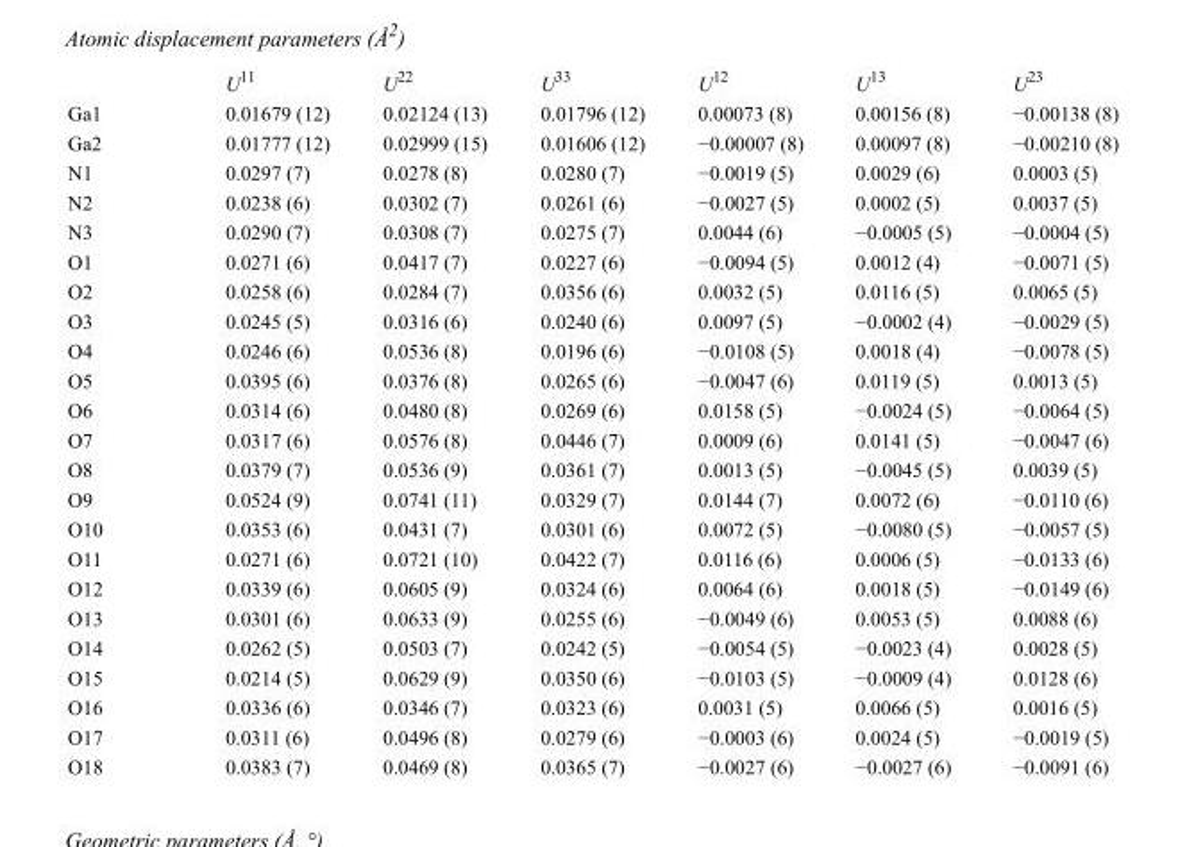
<table><thead><tr><td></td><td>U<sup>11</sup></td><td>U<sup>22</sup></td><td>U<sup>33</sup></td><td>U<sup>12</sup></td><td>U<sup>13</sup></td><td>U<sup>23</sup></td></tr></thead><tbody><tr><td>Ga1</td><td>0.01679 (12)</td><td>0.02124 (13)</td><td>0.01796 (12)</td><td>0.00073 (8)</td><td>0.00156 (8)</td><td>−0.00138 (8)</td></tr><tr><td>Ga2</td><td>0.01777 (12)</td><td>0.02999 (15)</td><td>0.01606 (12)</td><td>−0.00007 (8)</td><td>0.00097 (8)</td><td>−0.00210 (8)</td></tr><tr><td>N1</td><td>0.0297 (7)</td><td>0.0278 (8)</td><td>0.0280 (7)</td><td>−0.0019 (5)</td><td>0.0029 (6)</td><td>0.0003 (5)</td></tr><tr><td>N2</td><td>0.0238 (6)</td><td>0.0302 (7)</td><td>0.0261 (6)</td><td>−0.0027 (5)</td><td>0.0002 (5)</td><td>0.0037 (5)</td></tr><tr><td>N3</td><td>0.0290 (7)</td><td>0.0308 (7)</td><td>0.0275 (7)</td><td>0.0044 (6)</td><td>−0.0005 (5)</td><td>−0.0004 (5)</td></tr><tr><td>O1</td><td>0.0271 (6)</td><td>0.0417 (7)</td><td>0.0227 (6)</td><td>−0.0094 (5)</td><td>0.0012 (4)</td><td>−0.0071 (5)</td></tr><tr><td>O2</td><td>0.0258 (6)</td><td>0.0284 (7)</td><td>0.0356 (6)</td><td>0.0032 (5)</td><td>0.0116 (5)</td><td>0.0065 (5)</td></tr><tr><td>O3</td><td>0.0245 (5)</td><td>0.0316 (6)</td><td>0.0240 (6)</td><td>0.0097 (5)</td><td>−0.0002 (4)</td><td>−0.0029 (5)</td></tr><tr><td>O4</td><td>0.0246 (6)</td><td>0.0536 (8)</td><td>0.0196 (6)</td><td>−0.0108 (5)</td><td>0.0018 (4)</td><td>−0.0078 (5)</td></tr><tr><td>O5</td><td>0.0395 (6)</td><td>0.0376 (8)</td><td>0.0265 (6)</td><td>−0.0047 (6)</td><td>0.0119 (5)</td><td>0.0013 (5)</td></tr><tr><td>O6</td><td>0.0314 (6)</td><td>0.0480 (8)</td><td>0.0269 (6)</td><td>0.0158 (5)</td><td>−0.0024 (5)</td><td>−0.0064 (5)</td></tr><tr><td>O7</td><td>0.0317 (6)</td><td>0.0576 (8)</td><td>0.0446 (7)</td><td>0.0009 (6)</td><td>0.0141 (5)</td><td>−0.0047 (6)</td></tr><tr><td>O8</td><td>0.0379 (7)</td><td>0.0536 (9)</td><td>0.0361 (7)</td><td>0.0013 (5)</td><td>−0.0045 (5)</td><td>0.0039 (5)</td></tr><tr><td>O9</td><td>0.0524 (9)</td><td>0.0741 (11)</td><td>0.0329 (7)</td><td>0.0144 (7)</td><td>0.0072 (6)</td><td>−0.0110 (6)</td></tr><tr><td>O10</td><td>0.0353 (6)</td><td>0.0431 (7)</td><td>0.0301 (6)</td><td>0.0072 (5)</td><td>−0.0080 (5)</td><td>−0.0057 (5)</td></tr><tr><td>O11</td><td>0.0271 (6)</td><td>0.0721 (10)</td><td>0.0422 (7)</td><td>0.0116 (6)</td><td>0.0006 (5)</td><td>−0.0133 (6)</td></tr><tr><td>O12</td><td>0.0339 (6)</td><td>0.0605 (9)</td><td>0.0324 (6)</td><td>0.0064 (6)</td><td>0.0018 (5)</td><td>−0.0149 (6)</td></tr><tr><td>O13</td><td>0.0301 (6)</td><td>0.0633 (9)</td><td>0.0255 (6)</td><td>−0.0049 (6)</td><td>0.0053 (5)</td><td>0.0088 (6)</td></tr><tr><td>O14</td><td>0.0262 (5)</td><td>0.0503 (7)</td><td>0.0242 (5)</td><td>−0.0054 (5)</td><td>−0.0023 (4)</td><td>0.0028 (5)</td></tr><tr><td>O15</td><td>0.0214 (5)</td><td>0.0629 (9)</td><td>0.0350 (6)</td><td>−0.0103 (5)</td><td>−0.0009 (4)</td><td>0.0128 (6)</td></tr><tr><td>O16</td><td>0.0336 (6)</td><td>0.0346 (7)</td><td>0.0323 (6)</td><td>0.0031 (5)</td><td>0.0066 (5)</td><td>0.0016 (5)</td></tr><tr><td>O17</td><td>0.0311 (6)</td><td>0.0496 (8)</td><td>0.0279 (6)</td><td>−0.0003 (6)</td><td>0.0024 (5)</td><td>−0.0019 (5)</td></tr><tr><td>O18</td><td>0.0383 (7)</td><td>0.0469 (8)</td><td>0.0365 (7)</td><td>−0.0027 (6)</td><td>−0.0027 (6)</td><td>−0.0091 (6)</td></tr></tbody></table>